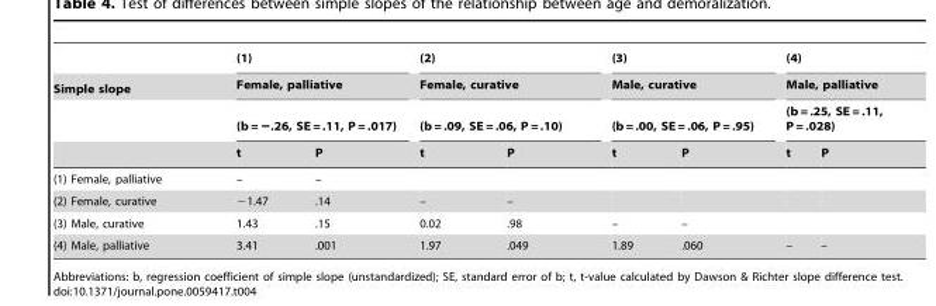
<table><thead><tr><td rowspan="4">Simple slope</td><td rowspan="3" colspan="2">(1) Female, palliative (b = −.26, SE = .11, P = .017)</td><td rowspan="3" colspan="2">(2) Female, curative (b = .09, SE = .06, P = .10)</td><td rowspan="3" colspan="2">(3) Male, curative (b = .00, SE = .06, P = .95)</td><td rowspan="3" colspan="2">(4) Male, palliative (b = .25, SE = .11, P = .028)</td></tr><tr></tr><tr></tr><tr><td>t</td><td>P</td><td>t</td><td>P</td><td>t</td><td>P</td><td>t</td><td>P</td></tr></thead><tbody><tr><td>(1) Female, palliative</td><td>–</td><td>–</td><td></td><td></td><td></td><td></td><td></td><td></td></tr><tr><td>(2) Female, curative</td><td>−1.47</td><td>.14</td><td>–</td><td>–</td><td></td><td></td><td></td><td></td></tr><tr><td>(3) Male, curative</td><td>1.43</td><td>.15</td><td>0.02</td><td>.98</td><td>–</td><td>–</td><td></td><td></td></tr><tr><td>(4) Male, palliative</td><td>3.41</td><td>.001</td><td>1.97</td><td>.049</td><td>1.89</td><td>.060</td><td>–</td><td>–</td></tr></tbody></table>